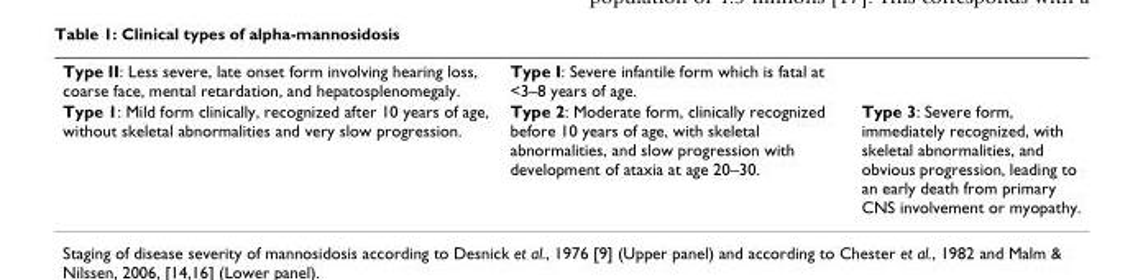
<table><tbody><tr><td>Type II: Less severe, late onset form involving hearing loss, coarse face, mental retardation, and hepatosplenomegaly.</td><td>Type I: Severe infantile form which is fatal at &lt;3–8 years of age.</td><td></td></tr><tr><td>Type 1: Mild form clinically, recognized after 10 years of age, without skeletal abnormalities and very slow progression.</td><td>Type 2: Moderate form, clinically recognized before 10 years of age, with skeletal abnormalities, and slow progression with development of ataxia at age 20–30.</td><td>Type 3: Severe form, immediately recognized, with skeletal abnormalities, and obvious progression, leading to an early death from primary CNS involvement or myopathy.</td></tr></tbody></table>